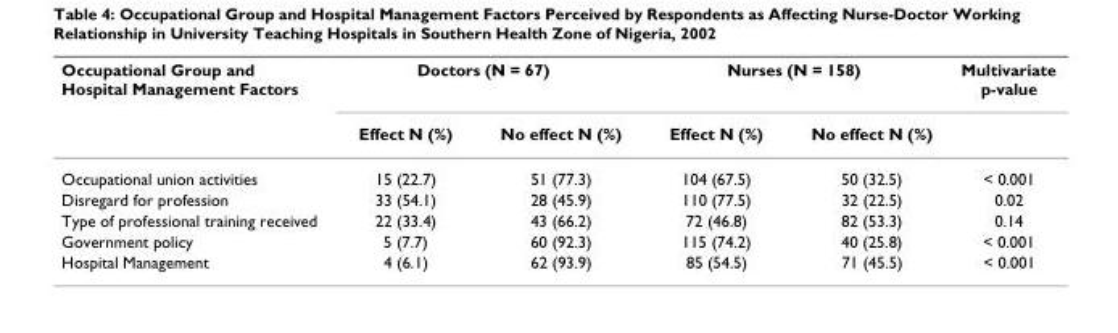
<table><thead><tr><td rowspan="2">Occupational Group and Hospital Management Factors</td><td colspan="2">Doctors (N = 67)</td><td colspan="2">Nurses (N = 158)</td><td rowspan="2">Multivariate p-value</td></tr><tr><td>Effect N (%)</td><td>No effect N (%)</td><td>Effect N (%)</td><td>No effect N (%)</td></tr></thead><tbody><tr><td>Occupational union activities</td><td>15 (22.7)</td><td>51 (77.3)</td><td>104 (67.5)</td><td>50 (32.5)</td><td>&lt; 0.001</td></tr><tr><td>Disregard for profession</td><td>33 (54.1)</td><td>28 (45.9)</td><td>110 (77.5)</td><td>32 (22.5)</td><td>0.02</td></tr><tr><td>Type of professional training received</td><td>22 (33.4)</td><td>43 (66.2)</td><td>72 (46.8)</td><td>82 (53.3)</td><td>0.14</td></tr><tr><td>Government policy</td><td>5 (7.7)</td><td>60 (92.3)</td><td>115 (74.2)</td><td>40 (25.8)</td><td>&lt; 0.001</td></tr><tr><td>Hospital Management</td><td>4 (6.1)</td><td>62 (93.9)</td><td>85 (54.5)</td><td>71 (45.5)</td><td>&lt; 0.001</td></tr></tbody></table>